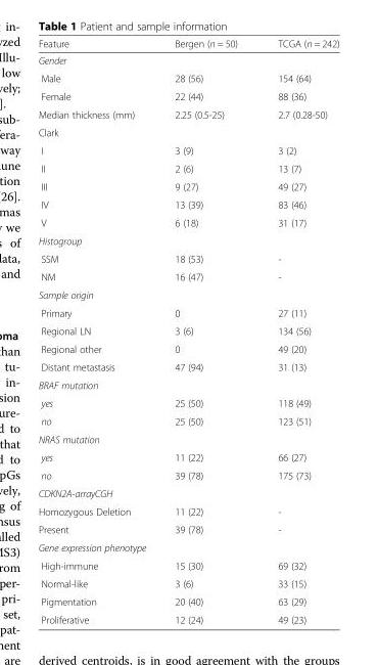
<table><thead><tr><td>Feature</td><td>Bergen (n = 50)</td><td>TCGA (n = 242)</td></tr></thead><tbody><tr><td colspan="3">Gender</td></tr><tr><td>Male</td><td>28 (56)</td><td>154 (64)</td></tr><tr><td>Female</td><td>22 (44)</td><td>88 (36)</td></tr><tr><td>Median thickness (mm)</td><td>2.25 (0.5-25)</td><td>2.7 (0.28-50)</td></tr><tr><td colspan="3">Clark</td></tr><tr><td>I</td><td>3 (9)</td><td>3 (2)</td></tr><tr><td>II</td><td>2 (6)</td><td>13 (7)</td></tr><tr><td>III</td><td>9 (27)</td><td>49 (27)</td></tr><tr><td>IV</td><td>13 (39)</td><td>83 (46)</td></tr><tr><td>V</td><td>6 (18)</td><td>31 (17)</td></tr><tr><td colspan="3">Histogroup</td></tr><tr><td>SSM</td><td>18 (53)</td><td>-</td></tr><tr><td>NM</td><td>16 (47)</td><td>-</td></tr><tr><td colspan="3">Sample origin</td></tr><tr><td>Primary</td><td>0</td><td>27 (11)</td></tr><tr><td>Regional LN</td><td>3 (6)</td><td>134 (56)</td></tr><tr><td>Regional other</td><td>0</td><td>49 (20)</td></tr><tr><td>Distant metastasis</td><td>47 (94)</td><td>31 (13)</td></tr><tr><td colspan="3">BRAF mutation</td></tr><tr><td>yes</td><td>25 (50)</td><td>118 (49)</td></tr><tr><td>no</td><td>25 (50)</td><td>123 (51)</td></tr><tr><td colspan="3">NRAS mutation</td></tr><tr><td>yes</td><td>11 (22)</td><td>66 (27)</td></tr><tr><td>no</td><td>39 (78)</td><td>175 (73)</td></tr><tr><td colspan="3">CDKN2A-arrayCGH</td></tr><tr><td>Homozygous Deletion</td><td>11 (22)</td><td>-</td></tr><tr><td>Present</td><td>39 (78)</td><td>-</td></tr><tr><td colspan="3">Gene expression phenotype</td></tr><tr><td>High-immune</td><td>15 (30)</td><td>69 (32)</td></tr><tr><td>Normal-like</td><td>3 (6)</td><td>33 (15)</td></tr><tr><td>Pigmentation</td><td>20 (40)</td><td>63 (29)</td></tr><tr><td>Proliferative</td><td>12 (24)</td><td>49 (23)</td></tr></tbody></table>